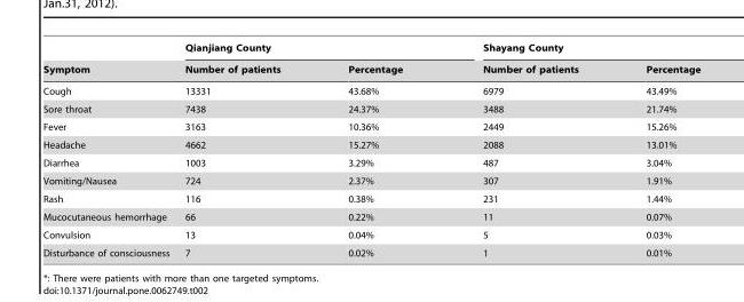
<table><thead><tr><td rowspan="2">Symptom</td><td colspan="2">Qianjiang County</td><td colspan="2">Shayang County</td></tr><tr><td>Number of patients</td><td>Percentage</td><td>Number of patients</td><td>Percentage</td></tr></thead><tbody><tr><td>Cough</td><td>13331</td><td>43.68%</td><td>6979</td><td>43.49%</td></tr><tr><td>Sore throat</td><td>7438</td><td>24.37%</td><td>3488</td><td>21.74%</td></tr><tr><td>Fever</td><td>3163</td><td>10.36%</td><td>2449</td><td>15.26%</td></tr><tr><td>Headache</td><td>4662</td><td>15.27%</td><td>2088</td><td>13.01%</td></tr><tr><td>Diarrhea</td><td>1003</td><td>3.29%</td><td>487</td><td>3.04%</td></tr><tr><td>Vomiting/Nausea</td><td>724</td><td>2.37%</td><td>307</td><td>1.91%</td></tr><tr><td>Rash</td><td>116</td><td>0.38%</td><td>231</td><td>1.44%</td></tr><tr><td>Mucocutaneous hemorrhage</td><td>66</td><td>0.22%</td><td>11</td><td>0.07%</td></tr><tr><td>Convulsion</td><td>13</td><td>0.04%</td><td>5</td><td>0.03%</td></tr><tr><td>Disturbance of consciousness</td><td>7</td><td>0.02%</td><td>1</td><td>0.01%</td></tr></tbody></table>